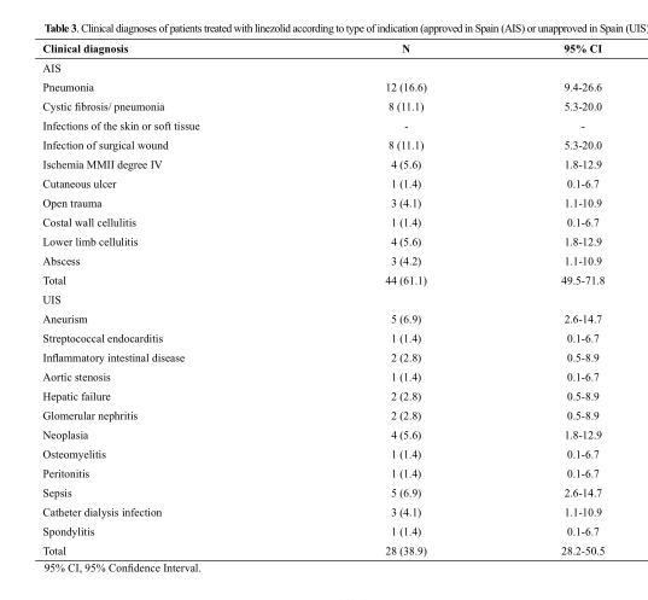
<table><thead><tr><td>Clinical diagnosis</td><td>N</td><td>95% CI</td></tr></thead><tbody><tr><td colspan="3">AIS</td></tr><tr><td>Pneumonia</td><td>12 (16.6)</td><td>9.4-26.6</td></tr><tr><td>Cystic fibrosis/ pneumonia</td><td>8 (11.1)</td><td>5.3-20.0</td></tr><tr><td>Infections of the skin or soft tissue</td><td>-</td><td>-</td></tr><tr><td>Infection of surgical wound</td><td>8 (11.1)</td><td>5.3-20.0</td></tr><tr><td>Ischemia MMII degree IV</td><td>4 (5.6)</td><td>1.8-12.9</td></tr><tr><td>Cutaneous ulcer</td><td>1 (1.4)</td><td>0.1-6.7</td></tr><tr><td>Open trauma</td><td>3 (4.1)</td><td>1.1-10.9</td></tr><tr><td>Costal wall cellulitis</td><td>1 (1.4)</td><td>0.1-6.7</td></tr><tr><td>Lower limb cellulitis</td><td>4 (5.6)</td><td>1.8-12.9</td></tr><tr><td>Abscess</td><td>3 (4.2)</td><td>1.1-10.9</td></tr><tr><td>Total</td><td>44 (61.1)</td><td>49.5-71.8</td></tr><tr><td colspan="3">UIS</td></tr><tr><td>Aneurism</td><td>5 (6.9)</td><td>2.6-14.7</td></tr><tr><td>Streptococcal endocarditis</td><td>1 (1.4)</td><td>0.1-6.7</td></tr><tr><td>Inflammatory intestinal disease</td><td>2 (2.8)</td><td>0.5-8.9</td></tr><tr><td>Aortic stenosis</td><td>1 (1.4)</td><td>0.1-6.7</td></tr><tr><td>Hepatic failure</td><td>2 (2.8)</td><td>0.5-8.9</td></tr><tr><td>Glomerular nephritis</td><td>2 (2.8)</td><td>0.5-8.9</td></tr><tr><td>Neoplasia</td><td>4 (5.6)</td><td>1.8-12.9</td></tr><tr><td>Osteomyelitis</td><td>1 (1.4)</td><td>0.1-6.7</td></tr><tr><td>Peritonitis</td><td>1 (1.4)</td><td>0.1-6.7</td></tr><tr><td>Sepsis</td><td>5 (6.9)</td><td>2.6-14.7</td></tr><tr><td>Catheter dialysis infection</td><td>3 (4.1)</td><td>1.1-10.9</td></tr><tr><td>Spondylitis</td><td>1 (1.4)</td><td>0.1-6.7</td></tr><tr><td>Total</td><td>28 (38.9)</td><td>28.2-50.5</td></tr></tbody></table>